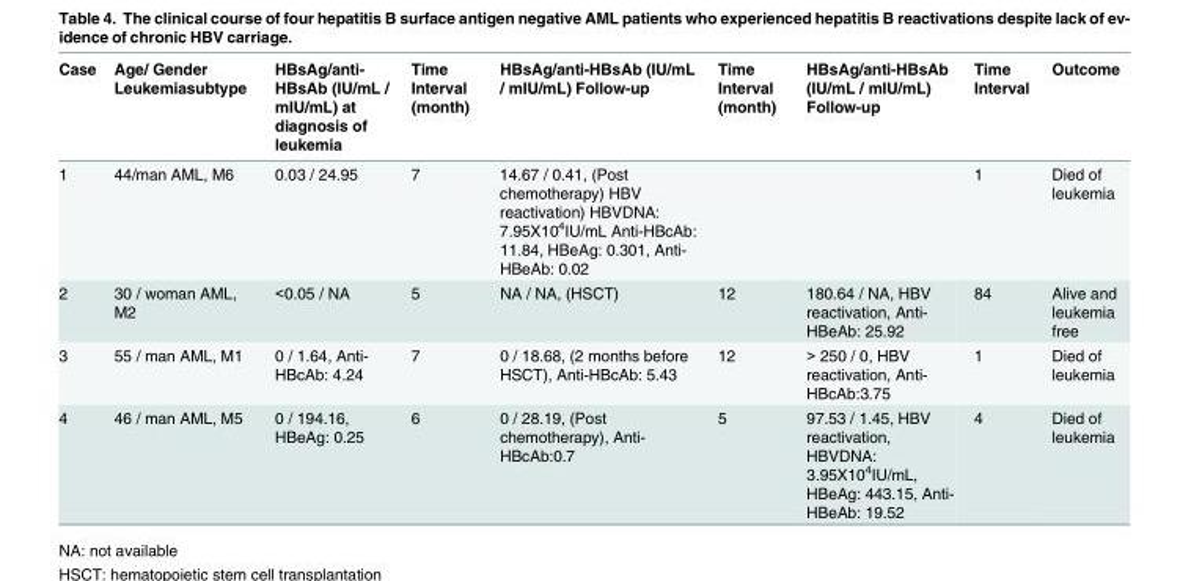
<table><thead><tr><td>Case</td><td>Age/ Gender Leukemiasubtype</td><td>HBsAg/anti- HBsAb (IU/mL / mIU/mL) at diagnosis of leukemia</td><td>Time Interval (month)</td><td>HBsAg/anti-HBsAb (IU/mL / mIU/mL) Follow-up</td><td>Time Interval (month)</td><td>HBsAg/anti-HBsAb (IU/mL / mIU/mL) Follow-up</td><td>Time Interval</td><td>Outcome</td></tr></thead><tbody><tr><td>1</td><td>44/man AML, M6</td><td>0.03 / 24.95</td><td>7</td><td>14.67 / 0.41, (Post chemotherapy) HBV reactivation) HBVDNA: 7.95X10<sup>4</sup>IU/mL Anti-HBcAb: 11.84, HBeAg: 0.301, Anti- HBeAb: 0.02</td><td></td><td></td><td>1</td><td>Died of leukemia</td></tr><tr><td>2</td><td>30 / woman AML, M2</td><td>&lt;0.05 / NA</td><td>5</td><td>NA / NA, (HSCT)</td><td>12</td><td>180.64 / NA, HBV reactivation, Anti- HBeAb: 25.92</td><td>84</td><td>Alive and leukemia free</td></tr><tr><td>3</td><td>55 / man AML, M1</td><td>0 / 1.64, Anti- HBcAb: 4.24</td><td>7</td><td>0 / 18.68, (2 months before HSCT), Anti-HBcAb: 5.43</td><td>12</td><td>&gt; 250 / 0, HBV reactivation, Anti- HBcAb:3.75</td><td>1</td><td>Died of leukemia</td></tr><tr><td>4</td><td>46 / man AML, M5</td><td>0 / 194.16, HBeAg: 0.25</td><td>6</td><td>0 / 28.19, (Post chemotherapy), Anti- HBcAb:0.7</td><td>5</td><td>97.53 / 1.45, HBV reactivation, HBVDNA: 3.95X10<sup>4</sup>IU/mL, HBeAg: 443.15, Anti- HBeAb: 19.52</td><td>4</td><td>Died of leukemia</td></tr></tbody></table>